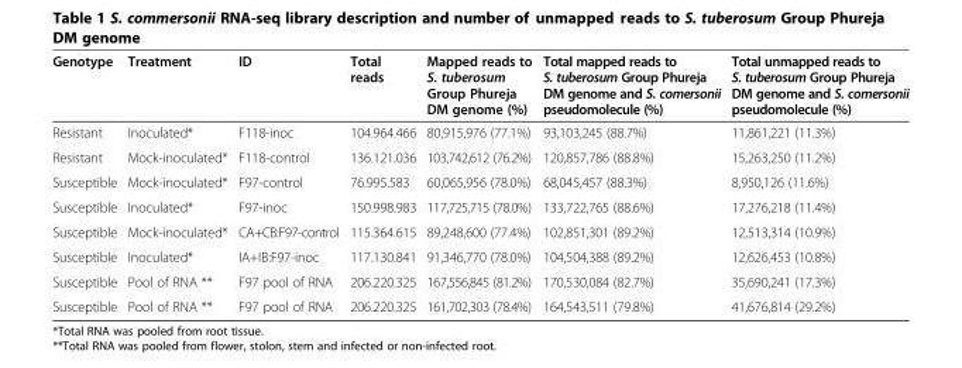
<table><thead><tr><td>Genotype</td><td>Treatment</td><td>ID</td><td>Total reads</td><td>Mapped reads to S. tuberosum Group Phureja DM genome (%)</td><td>Total mapped reads to S. tuberosum Group Phureja DM genome and S. comersonii pseudomolecule (%)</td><td>Total unmapped reads to S. tuberosum Group Phureja DM genome and S. comersonii pseudomolecule (%)</td></tr></thead><tbody><tr><td>Resistant</td><td>Inoculated*</td><td>F118-inoc</td><td>104.964.466</td><td>80,915,976 (77.1%)</td><td>93,103,245 (88.7%)</td><td>11,861,221 (11.3%)</td></tr><tr><td>Resistant</td><td>Mock-inoculated*</td><td>F118-control</td><td>136.121.036</td><td>103,742,612 (76.2%)</td><td>120,857,786 (88.8%)</td><td>15,263,250 (11.2%)</td></tr><tr><td>Susceptible</td><td>Mock-inoculated*</td><td>F97-control</td><td>76.995.583</td><td>60,065,956 (78.0%)</td><td>68,045,457 (88.3%)</td><td>8,950,126 (11.6%)</td></tr><tr><td>Susceptible</td><td>Inoculated*</td><td>F97-inoc</td><td>150.998.983</td><td>117,725,715 (78.0%)</td><td>133,722,765 (88.6%)</td><td>17,276,218 (11.4%)</td></tr><tr><td>Susceptible</td><td>Mock-inoculated*</td><td>CA+CB:F97-control</td><td>115.364.615</td><td>89,248,600 (77.4%)</td><td>102,851,301 (89.2%)</td><td>12,513,314 (10.9%)</td></tr><tr><td>Susceptible</td><td>Inoculated*</td><td>IA+IB:F97-inoc</td><td>117.130.841</td><td>91,346,770 (78.0%)</td><td>104,504,388 (89.2%)</td><td>12,626,453 (10.8%)</td></tr><tr><td>Susceptible</td><td>Pool of RNA **</td><td>F97 pool of RNA</td><td>206.220.325</td><td>167,556,845 (81.2%)</td><td>170,530,084 (82.7%)</td><td>35,690,241 (17.3%)</td></tr><tr><td>Susceptible</td><td>Pool of RNA **</td><td>F97 pool of RNA</td><td>206.220.325</td><td>161,702,303 (78.4%)</td><td>164,543,511 (79.8%)</td><td>41,676,814 (29.2%)</td></tr></tbody></table>